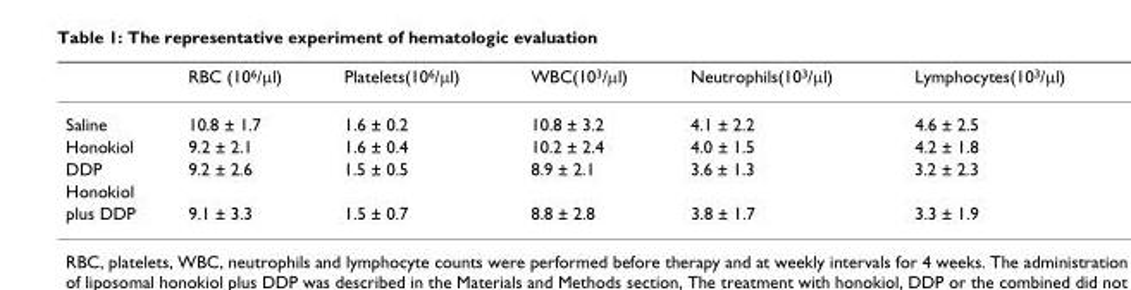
<table><thead><tr><td></td><td>RBC (10<sup>6</sup>/μl)</td><td>Platelets(10<sup>6</sup>/μl)</td><td>WBC(10<sup>3</sup>/μl)</td><td>Neutrophils(10<sup>3</sup>/μl)</td><td>Lymphocytes(10<sup>3</sup>/μl)</td></tr></thead><tbody><tr><td>Saline</td><td>10.8 ± 1.7</td><td>1.6 ± 0.2</td><td>10.8 ± 3.2</td><td>4.1 ± 2.2</td><td>4.6 ± 2.5</td></tr><tr><td>Honokiol</td><td>9.2 ± 2.1</td><td>1.6 ± 0.4</td><td>10.2 ± 2.4</td><td>4.0 ± 1.5</td><td>4.2 ± 1.8</td></tr><tr><td>DDP</td><td>9.2 ± 2.6</td><td>1.5 ± 0.5</td><td>8.9 ± 2.1</td><td>3.6 ± 1.3</td><td>3.2 ± 2.3</td></tr><tr><td colspan="6">Honokiol</td></tr><tr><td>plus DDP</td><td>9.1 ± 3.3</td><td>1.5 ± 0.7</td><td>8.8 ± 2.8</td><td>3.8 ± 1.7</td><td>3.3 ± 1.9</td></tr></tbody></table>